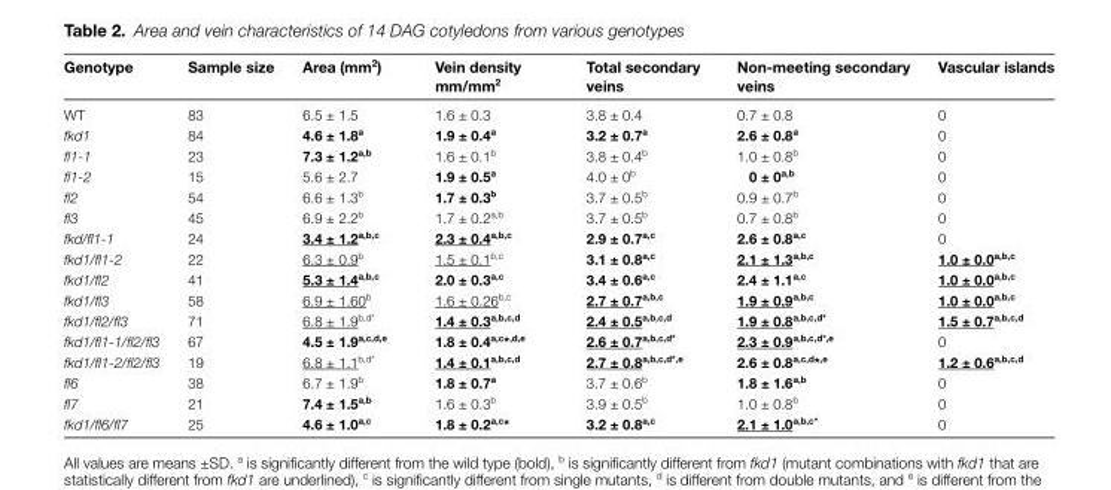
<table><thead><tr><td>Genotype</td><td>Sample size</td><td>Area (mm<sup>2</sup>)</td><td>Vein density mm/mm<sup>2</sup></td><td>Total secondary veins</td><td>Non-meeting secondary veins</td><td>Vascular islands</td></tr></thead><tbody><tr><td>WT</td><td>83</td><td>6.5 ± 1.5</td><td>1.6 ± 0.3</td><td>3.8 ± 0.4</td><td>0.7 ± 0.8</td><td>0</td></tr><tr><td>fkd1</td><td>84</td><td>4.6 ± 1.8<sup>a</sup></td><td>1.9 ± 0.4<sup>a</sup></td><td>3.2 ± 0.7<sup>a</sup></td><td>2.6 ± 0.8<sup>a</sup></td><td>0</td></tr><tr><td>fl1-1</td><td>23</td><td>7.3 ± 1.2<sup>a,b</sup></td><td>1.6 ± 0.1<sup>b</sup></td><td>3.8 ± 0.4<sup>b</sup></td><td>1.0 ± 0.8<sup>b</sup></td><td>0</td></tr><tr><td>fl1-2</td><td>15</td><td>5.6 ± 2.7</td><td>1.9 ± 0.5<sup>a</sup></td><td>4.0 ± 0<sup>b</sup></td><td>0 ± 0<sup>a,b</sup></td><td>0</td></tr><tr><td>fl2</td><td>54</td><td>6.6 ± 1.3<sup>b</sup></td><td>1.7 ± 0.3<sup>b</sup></td><td>3.7 ± 0.5<sup>b</sup></td><td>0.9 ± 0.7<sup>b</sup></td><td>0</td></tr><tr><td>fl3</td><td>45</td><td>6.9 ± 2.2<sup>b</sup></td><td>1.7 ± 0.2<sup>a,b</sup></td><td>3.7 ± 0.5<sup>b</sup></td><td>0.7 ± 0.8<sup>b</sup></td><td>0</td></tr><tr><td>fkd/fl1-1</td><td>24</td><td>3.4 ± 1.2<sup>a,b,c</sup></td><td>2.3 ± 0.4<sup>a,b,c</sup></td><td>2.9 ± 0.7<sup>a,c</sup></td><td>2.6 ± 0.8<sup>a,c</sup></td><td>0</td></tr><tr><td>fkd1/fl1-2</td><td>22</td><td>6.3 ± 0.9<sup>b</sup></td><td>1.5 ± 0.1<sup>b,c</sup></td><td>3.1 ± 0.8<sup>a,c</sup></td><td>2.1 ± 1.3<sup>a,b,c</sup></td><td>1.0 ± 0.0<sup>a,b,c</sup></td></tr><tr><td>fkd1/fl2</td><td>41</td><td>5.3 ± 1.4<sup>a,b,c</sup></td><td>2.0 ± 0.3<sup>a,c</sup></td><td>3.4 ± 0.6<sup>a,c</sup></td><td>2.4 ± 1.1<sup>a,c</sup></td><td>1.0 ± 0.0<sup>a,b,c</sup></td></tr><tr><td>fkd1/fl3</td><td>58</td><td>6.9 ± 1.60<sup>b</sup></td><td>1.6 ± 0.26<sup>b,c</sup></td><td>2.7 ± 0.7<sup>a,b,c</sup></td><td>1.9 ± 0.9<sup>a,b,c</sup></td><td>1.0 ± 0.0<sup>a,b,c</sup></td></tr><tr><td>fkd1/fl2/fl3</td><td>71</td><td>6.8 ± 1.9<sup>b,d</sup>*</td><td>1.4 ± 0.3<sup>a,b,c,d</sup></td><td>2.4 ± 0.5<sup>a,b,c,d</sup></td><td>1.9 ± 0.8<sup>a,b,c,d</sup>*</td><td>1.5 ± 0.7<sup>a,b,c,d</sup></td></tr><tr><td>fkd1/fl1-1/fl2/fl3</td><td>67</td><td>4.5 ± 1.9<sup>a,c,d,e</sup></td><td>1.8 ± 0.4<sup>a,c</sup>*<sup>,d,e</sup></td><td>2.6 ± 0.7<sup>a,b,c,d</sup>*</td><td>2.3 ± 0.9<sup>a,b,c,d</sup>*<sup>,e</sup></td><td>0</td></tr><tr><td>fkd1/fl1-2/fl2/fl3</td><td>19</td><td>6.8 ± 1.1<sup>b,d</sup>*</td><td>1.4 ± 0.1<sup>a,b,c,d</sup></td><td>2.7 ± 0.8<sup>a,b,c,d</sup>*<sup>,e</sup></td><td>2.6 ± 0.8<sup>a,c,d</sup>*<sup>,e</sup></td><td>1.2 ± 0.6<sup>a,b,c,d</sup></td></tr><tr><td>fl6</td><td>38</td><td>6.7 ± 1.9<sup>b</sup></td><td>1.8 ± 0.7<sup>a</sup></td><td>3.7 ± 0.6<sup>b</sup></td><td>1.8 ± 1.6<sup>a,b</sup></td><td>0</td></tr><tr><td>fl7</td><td>21</td><td>7.4 ± 1.5<sup>a,b</sup></td><td>1.6 ± 0.3<sup>b</sup></td><td>3.9 ± 0.5<sup>b</sup></td><td>1.0 ± 0.8<sup>b</sup></td><td>0</td></tr><tr><td>fkd1/fl6/fl7</td><td>25</td><td>4.6 ± 1.0<sup>a,c</sup></td><td>1.8 ± 0.2<sup>a,c</sup>*</td><td>3.2 ± 0.8<sup>a,c</sup></td><td>2.1 ± 1.0<sup>a,b,c</sup>*</td><td>0</td></tr></tbody></table>